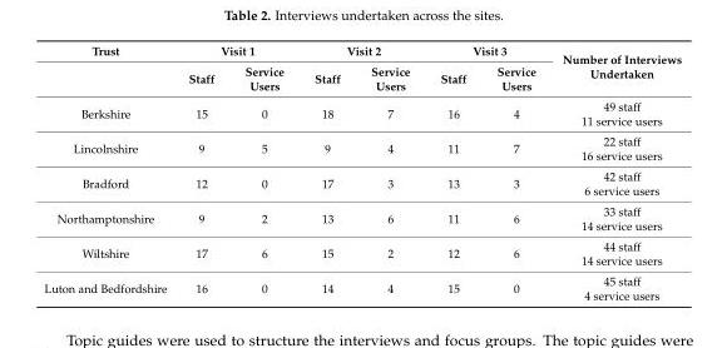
<table><thead><tr><td rowspan="2">Trust</td><td colspan="2">Visit 1</td><td colspan="2">Visit 2</td><td colspan="2">Visit 3</td><td rowspan="2">Number of Interviews Undertaken</td></tr><tr><td>Staff</td><td>Service Users</td><td>Staff</td><td>Service Users</td><td>Staff</td><td>Service Users</td></tr></thead><tbody><tr><td>Berkshire</td><td>15</td><td>0</td><td>18</td><td>7</td><td>16</td><td>4</td><td>49 staff 11 service users</td></tr><tr><td>Lincolnshire</td><td>9</td><td>5</td><td>9</td><td>4</td><td>11</td><td>7</td><td>22 staff 16 service users</td></tr><tr><td>Bradford</td><td>12</td><td>0</td><td>17</td><td>3</td><td>13</td><td>3</td><td>42 staff 6 service users</td></tr><tr><td>Northamptonshire</td><td>9</td><td>2</td><td>13</td><td>6</td><td>11</td><td>6</td><td>33 staff 14 service users</td></tr><tr><td>Wiltshire</td><td>17</td><td>6</td><td>15</td><td>2</td><td>12</td><td>6</td><td>44 staff 14 service users</td></tr><tr><td>Luton and Bedfordshire</td><td>16</td><td>0</td><td>14</td><td>4</td><td>15</td><td>0</td><td>45 staff 4 service users</td></tr></tbody></table>